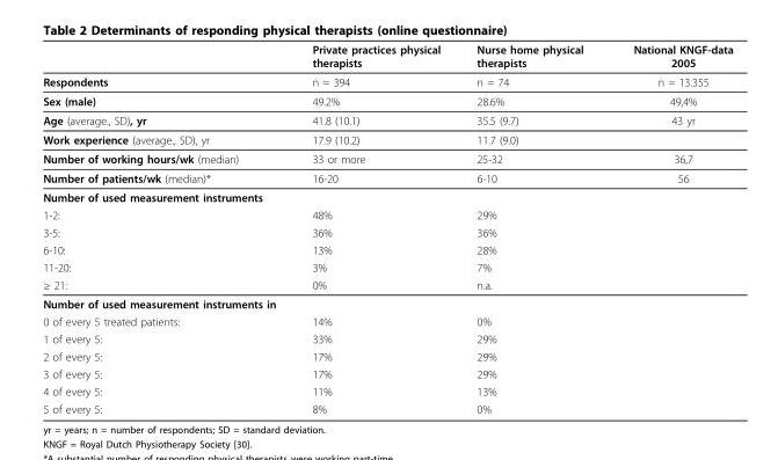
<table><thead><tr><td></td><td>Private practices physical therapists</td><td>Nurse home physical therapists</td><td>National KNGF-data 2005</td></tr></thead><tbody><tr><td>Respondents</td><td>n = 394</td><td>n = 74</td><td>n = 13.355</td></tr><tr><td>Sex (male)</td><td>49.2%</td><td>28.6%</td><td>49,4%</td></tr><tr><td>Age (average., SD), yr</td><td>41.8 (10.1)</td><td>35.5 (9.7)</td><td>43 yr</td></tr><tr><td>Work experience (average., SD), yr</td><td>17.9 (10.2)</td><td>11.7 (9.0)</td><td></td></tr><tr><td>Number of working hours/wk (median)</td><td>33 or more</td><td>25-32</td><td>36,7</td></tr><tr><td>Number of patients/wk (median)*</td><td>16-20</td><td>6-10</td><td>56</td></tr><tr><td colspan="4">Number of used measurement instruments</td></tr><tr><td>1-2:</td><td>48%</td><td>29%</td><td></td></tr><tr><td>3-5:</td><td>36%</td><td>36%</td><td></td></tr><tr><td>6-10:</td><td>13%</td><td>28%</td><td></td></tr><tr><td>11-20:</td><td>3%</td><td>7%</td><td></td></tr><tr><td>≥ 21:</td><td>0%</td><td>n.a.</td><td></td></tr><tr><td colspan="4">Number of used measurement instruments in</td></tr><tr><td>0 of every 5 treated patients:</td><td>14%</td><td>0%</td><td></td></tr><tr><td>1 of every 5:</td><td>33%</td><td>29%</td><td></td></tr><tr><td>2 of every 5:</td><td>17%</td><td>29%</td><td></td></tr><tr><td>3 of every 5:</td><td>17%</td><td>29%</td><td></td></tr><tr><td>4 of every 5:</td><td>11%</td><td>13%</td><td></td></tr><tr><td>5 of every 5:</td><td>8%</td><td>0%</td><td></td></tr></tbody></table>